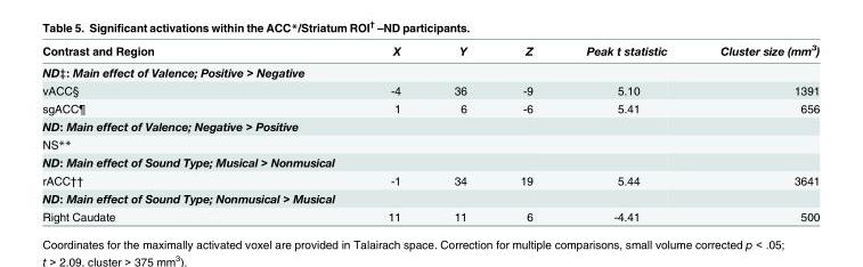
<table><thead><tr><td>Contrast and Region</td><td>X</td><td>Y</td><td>Z</td><td>Peak t statistic</td><td>Cluster size (mm<sup>3</sup>)</td></tr></thead><tbody><tr><td colspan="6">ND‡: Main effect of Valence; Positive &gt; Negative</td></tr><tr><td>vACC§</td><td>-4</td><td>36</td><td>-9</td><td>5.10</td><td>1391</td></tr><tr><td>sgACC¶</td><td>1</td><td>6</td><td>-6</td><td>5.41</td><td>656</td></tr><tr><td colspan="6">ND: Main effect of Valence; Negative &gt; Positive</td></tr><tr><td colspan="6">NS**</td></tr><tr><td colspan="6">ND: Main effect of Sound Type; Musical &gt; Nonmusical</td></tr><tr><td>rACC††</td><td>-1</td><td>34</td><td>19</td><td>5.44</td><td>3641</td></tr><tr><td colspan="6">ND: Main effect of Sound Type; Nonmusical &gt; Musical</td></tr><tr><td>Right Caudate</td><td>11</td><td>11</td><td>6</td><td>-4.41</td><td>500</td></tr></tbody></table>